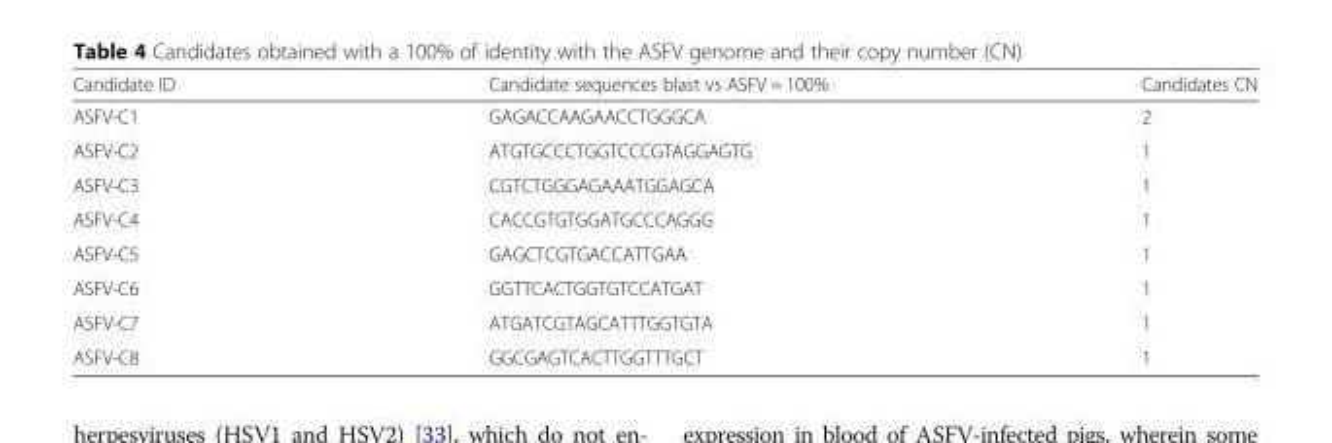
<table><thead><tr><td>Candidate ID</td><td>Candidate sequences blast vs ASFV = 100%</td><td>Candidates CN</td></tr></thead><tbody><tr><td>ASFV-C1</td><td>GAGACCAAGAACCTGGGCA</td><td>2</td></tr><tr><td>ASFV-C2</td><td>ATGTGCCCTGGTCCCGTAGGAGTG</td><td>1</td></tr><tr><td>ASFV-C3</td><td>CGTCTGGGAGAAATGGAGCA</td><td>1</td></tr><tr><td>ASFV-C4</td><td>CACCGTGTGGATGCCCAGGG</td><td>1</td></tr><tr><td>ASFV-C5</td><td>GAGCTCGTGACCATTGAA</td><td>1</td></tr><tr><td>ASFV-C6</td><td>GGTTCACTGGTGTCCATGAT</td><td>1</td></tr><tr><td>ASFV-C7</td><td>ATGATCGTAGCATTTGGTGTA</td><td>1</td></tr><tr><td>ASFV-C8</td><td>GGCGAGTCACTTGGTTTGCT</td><td>1</td></tr></tbody></table>